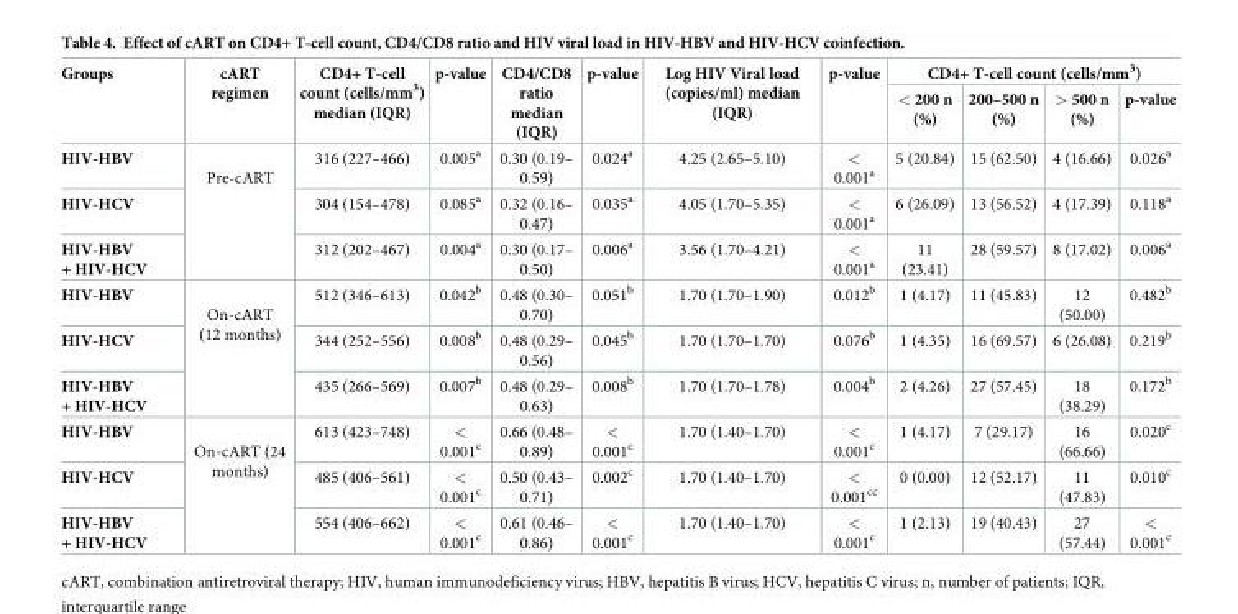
<table><thead><tr><td rowspan="2">Groups</td><td rowspan="2">cART regimen</td><td rowspan="2">CD4+ T-cell count (cells/mm<sup>3</sup>) median (IQR)</td><td rowspan="2">p-value</td><td rowspan="2">CD4/CD8 ratio median (IQR)</td><td rowspan="2">p-value</td><td rowspan="2">Log HIV Viral load (copies/ml) median (IQR)</td><td rowspan="2">p-value</td><td colspan="4">CD4+ T-cell count (cells/mm<sup>3</sup>)</td></tr><tr><td>&lt; 200 n (%)</td><td>200–500 n (%)</td><td>&gt; 500 n (%)</td><td>p-value</td></tr></thead><tbody><tr><td>HIV-HBV</td><td rowspan="3">Pre-cART</td><td>316 (227–466)</td><td>0.005<sup>a</sup></td><td>0.30 (0.19– 0.59)</td><td>0.024<sup>a</sup></td><td>4.25 (2.65–5.10)</td><td>&lt; 0.001<sup>a</sup></td><td>5 (20.84)</td><td>15 (62.50)</td><td>4 (16.66)</td><td>0.026<sup>a</sup></td></tr><tr><td>HIV-HCV</td><td>304 (154–478)</td><td>0.085<sup>a</sup></td><td>0.32 (0.16– 0.47)</td><td>0.035<sup>a</sup></td><td>4.05 (1.70–5.35)</td><td>&lt; 0.001<sup>a</sup></td><td>6 (26.09)</td><td>13 (56.52)</td><td>4 (17.39)</td><td>0.118<sup>a</sup></td></tr><tr><td>HIV-HBV + HIV-HCV</td><td>312 (202–467)</td><td>0.004<sup>a</sup></td><td>0.30 (0.17– 0.50)</td><td>0.006<sup>a</sup></td><td>3.56 (1.70–4.21)</td><td>&lt; 0.001<sup>a</sup></td><td>11 (23.41)</td><td>28 (59.57)</td><td>8 (17.02)</td><td>0.006<sup>a</sup></td></tr><tr><td>HIV-HBV</td><td rowspan="3">On-cART (12 months)</td><td>512 (346–613)</td><td>0.042<sup>b</sup></td><td>0.48 (0.30– 0.70)</td><td>0.051<sup>b</sup></td><td>1.70 (1.70–1.90)</td><td>0.012<sup>b</sup></td><td>1 (4.17)</td><td>11 (45.83)</td><td>12 (50.00)</td><td>0.482<sup>b</sup></td></tr><tr><td>HIV-HCV</td><td>344 (252–556)</td><td>0.008<sup>b</sup></td><td>0.48 (0.29– 0.56)</td><td>0.045<sup>b</sup></td><td>1.70 (1.70–1.70)</td><td>0.076<sup>b</sup></td><td>1 (4.35)</td><td>16 (69.57)</td><td>6 (26.08)</td><td>0.219<sup>b</sup></td></tr><tr><td>HIV-HBV + HIV-HCV</td><td>435 (266–569)</td><td>0.007<sup>b</sup></td><td>0.48 (0.29– 0.63)</td><td>0.008<sup>b</sup></td><td>1.70 (1.70–1.78)</td><td>0.004<sup>b</sup></td><td>2 (4.26)</td><td>27 (57.45)</td><td>18 (38.29)</td><td>0.172<sup>b</sup></td></tr><tr><td>HIV-HBV</td><td rowspan="3">On-cART (24 months)</td><td>613 (423–748)</td><td>&lt; 0.001<sup>c</sup></td><td>0.66 (0.48– 0.89)</td><td>&lt; 0.001<sup>c</sup></td><td>1.70 (1.40–1.70)</td><td>&lt; 0.001<sup>c</sup></td><td>1 (4.17)</td><td>7 (29.17)</td><td>16 (66.66)</td><td>0.020<sup>c</sup></td></tr><tr><td>HIV-HCV</td><td>485 (406–561)</td><td>&lt; 0.001<sup>c</sup></td><td>0.50 (0.43– 0.71)</td><td>0.002<sup>c</sup></td><td>1.70 (1.40–1.70)</td><td>&lt; 0.001<sup>cc</sup></td><td>0 (0.00)</td><td>12 (52.17)</td><td>11 (47.83)</td><td>0.010<sup>c</sup></td></tr><tr><td>HIV-HBV + HIV-HCV</td><td>554 (406–662)</td><td>&lt; 0.001<sup>c</sup></td><td>0.61 (0.46– 0.86)</td><td>&lt; 0.001<sup>c</sup></td><td>1.70 (1.40–1.70)</td><td>&lt; 0.001<sup>c</sup></td><td>1 (2.13)</td><td>19 (40.43)</td><td>27 (57.44)</td><td>&lt; 0.001<sup>c</sup></td></tr></tbody></table>